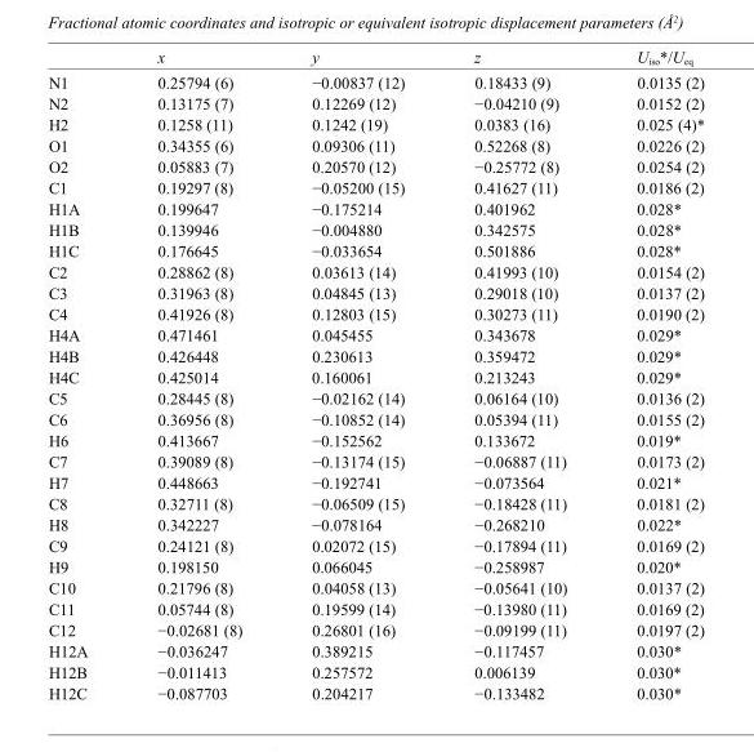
<table><thead><tr><td></td><td>x</td><td>y</td><td>z</td><td>U<sub>iso</sub>*/U<sub>eq</sub></td></tr></thead><tbody><tr><td>N1</td><td>0.25794 (6)</td><td>−0.00837 (12)</td><td>0.18433 (9)</td><td>0.0135 (2)</td></tr><tr><td>N2</td><td>0.13175 (7)</td><td>0.12269 (12)</td><td>−0.04210 (9)</td><td>0.0152 (2)</td></tr><tr><td>H2</td><td>0.1258 (11)</td><td>0.1242 (19)</td><td>0.0383 (16)</td><td>0.025 (4)*</td></tr><tr><td>O1</td><td>0.34355 (6)</td><td>0.09306 (11)</td><td>0.52268 (8)</td><td>0.0226 (2)</td></tr><tr><td>O2</td><td>0.05883 (7)</td><td>0.20570 (12)</td><td>−0.25772 (8)</td><td>0.0254 (2)</td></tr><tr><td>C1</td><td>0.19297 (8)</td><td>−0.05200 (15)</td><td>0.41627 (11)</td><td>0.0186 (2)</td></tr><tr><td>H1A</td><td>0.199647</td><td>−0.175214</td><td>0.401962</td><td>0.028*</td></tr><tr><td>H1B</td><td>0.139946</td><td>−0.004880</td><td>0.342575</td><td>0.028*</td></tr><tr><td>H1C</td><td>0.176645</td><td>−0.033654</td><td>0.501886</td><td>0.028*</td></tr><tr><td>C2</td><td>0.28862 (8)</td><td>0.03613 (14)</td><td>0.41993 (10)</td><td>0.0154 (2)</td></tr><tr><td>C3</td><td>0.31963 (8)</td><td>0.04845 (13)</td><td>0.29018 (10)</td><td>0.0137 (2)</td></tr><tr><td>C4</td><td>0.41926 (8)</td><td>0.12803 (15)</td><td>0.30273 (11)</td><td>0.0190 (2)</td></tr><tr><td>H4A</td><td>0.471461</td><td>0.045455</td><td>0.343678</td><td>0.029*</td></tr><tr><td>H4B</td><td>0.426448</td><td>0.230613</td><td>0.359472</td><td>0.029*</td></tr><tr><td>H4C</td><td>0.425014</td><td>0.160061</td><td>0.213243</td><td>0.029*</td></tr><tr><td>C5</td><td>0.28445 (8)</td><td>−0.02162 (14)</td><td>0.06164 (10)</td><td>0.0136 (2)</td></tr><tr><td>C6</td><td>0.36956 (8)</td><td>−0.10852 (14)</td><td>0.05394 (11)</td><td>0.0155 (2)</td></tr><tr><td>H6</td><td>0.413667</td><td>−0.152562</td><td>0.133672</td><td>0.019*</td></tr><tr><td>C7</td><td>0.39089 (8)</td><td>−0.13174 (15)</td><td>−0.06887 (11)</td><td>0.0173 (2)</td></tr><tr><td>H7</td><td>0.448663</td><td>−0.192741</td><td>−0.073564</td><td>0.021*</td></tr><tr><td>C8</td><td>0.32711 (8)</td><td>−0.06509 (15)</td><td>−0.18428 (11)</td><td>0.0181 (2)</td></tr><tr><td>H8</td><td>0.342227</td><td>−0.078164</td><td>−0.268210</td><td>0.022*</td></tr><tr><td>C9</td><td>0.24121 (8)</td><td>0.02072 (15)</td><td>−0.17894 (11)</td><td>0.0169 (2)</td></tr><tr><td>H9</td><td>0.198150</td><td>0.066045</td><td>−0.258987</td><td>0.020*</td></tr><tr><td>C10</td><td>0.21796 (8)</td><td>0.04058 (13)</td><td>−0.05641 (10)</td><td>0.0137 (2)</td></tr><tr><td>C11</td><td>0.05744 (8)</td><td>0.19599 (14)</td><td>−0.13980 (11)</td><td>0.0169 (2)</td></tr><tr><td>C12</td><td>−0.02681 (8)</td><td>0.26801 (16)</td><td>−0.09199 (11)</td><td>0.0197 (2)</td></tr><tr><td>H12A</td><td>−0.036247</td><td>0.389215</td><td>−0.117457</td><td>0.030*</td></tr><tr><td>H12B</td><td>−0.011413</td><td>0.257572</td><td>0.006139</td><td>0.030*</td></tr><tr><td>H12C</td><td>−0.087703</td><td>0.204217</td><td>−0.133482</td><td>0.030*</td></tr></tbody></table>